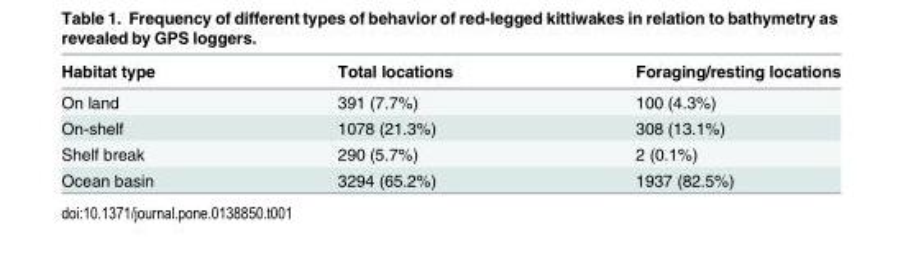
<table><thead><tr><td>Habitat type</td><td>Total locations</td><td>Foraging/resting locations</td></tr></thead><tbody><tr><td>On land</td><td>391 (7.7%)</td><td>100 (4.3%)</td></tr><tr><td>On-shelf</td><td>1078 (21.3%)</td><td>308 (13.1%)</td></tr><tr><td>Shelf break</td><td>290 (5.7%)</td><td>2 (0.1%)</td></tr><tr><td>Ocean basin</td><td>3294 (65.2%)</td><td>1937 (82.5%)</td></tr></tbody></table>